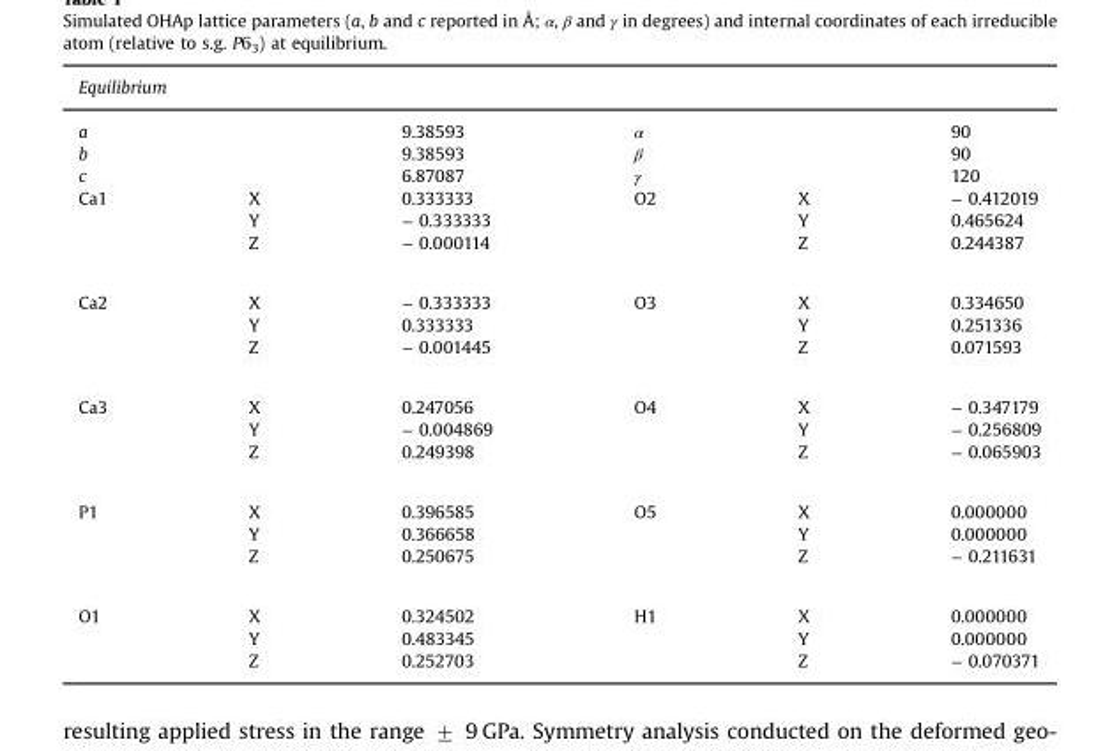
<table><thead><tr><td colspan="6">Equilibrium</td></tr><tr><td>a</td><td></td><td>9.38593</td><td>α</td><td></td><td>90</td></tr></thead><tbody><tr><td>b</td><td></td><td>9.38593</td><td>β</td><td></td><td>90</td></tr><tr><td>c</td><td></td><td>6.87087</td><td>γ</td><td></td><td>120</td></tr><tr><td rowspan="3">Ca1</td><td>X</td><td>0.333333</td><td rowspan="3">O2</td><td>X</td><td>− 0.412019</td></tr><tr><td>Y</td><td>− 0.333333</td><td>Y</td><td>0.465624</td></tr><tr><td>Z</td><td>− 0.000114</td><td>Z</td><td>0.244387</td></tr><tr><td rowspan="3">Ca2</td><td>X</td><td>− 0.333333</td><td rowspan="3">O3</td><td>X</td><td>0.334650</td></tr><tr><td>Y</td><td>0.333333</td><td>Y</td><td>0.251336</td></tr><tr><td>Z</td><td>− 0.001445</td><td>Z</td><td>0.071593</td></tr><tr><td rowspan="3">Ca3</td><td>X</td><td>0.247056</td><td rowspan="3">O4</td><td>X</td><td>− 0.347179</td></tr><tr><td>Y</td><td>− 0.004869</td><td>Y</td><td>− 0.256809</td></tr><tr><td>Z</td><td>0.249398</td><td>Z</td><td>− 0.065903</td></tr><tr><td rowspan="3">P1</td><td>X</td><td>0.396585</td><td rowspan="3">O5</td><td>X</td><td>0.000000</td></tr><tr><td>Y</td><td>0.366658</td><td>Y</td><td>0.000000</td></tr><tr><td>Z</td><td>0.250675</td><td>Z</td><td>− 0.211631</td></tr><tr><td rowspan="3">O1</td><td>X</td><td>0.324502</td><td rowspan="3">H1</td><td>X</td><td>0.000000</td></tr><tr><td>Y</td><td>0.483345</td><td>Y</td><td>0.000000</td></tr><tr><td>Z</td><td>0.252703</td><td>Z</td><td>− 0.070371</td></tr></tbody></table>